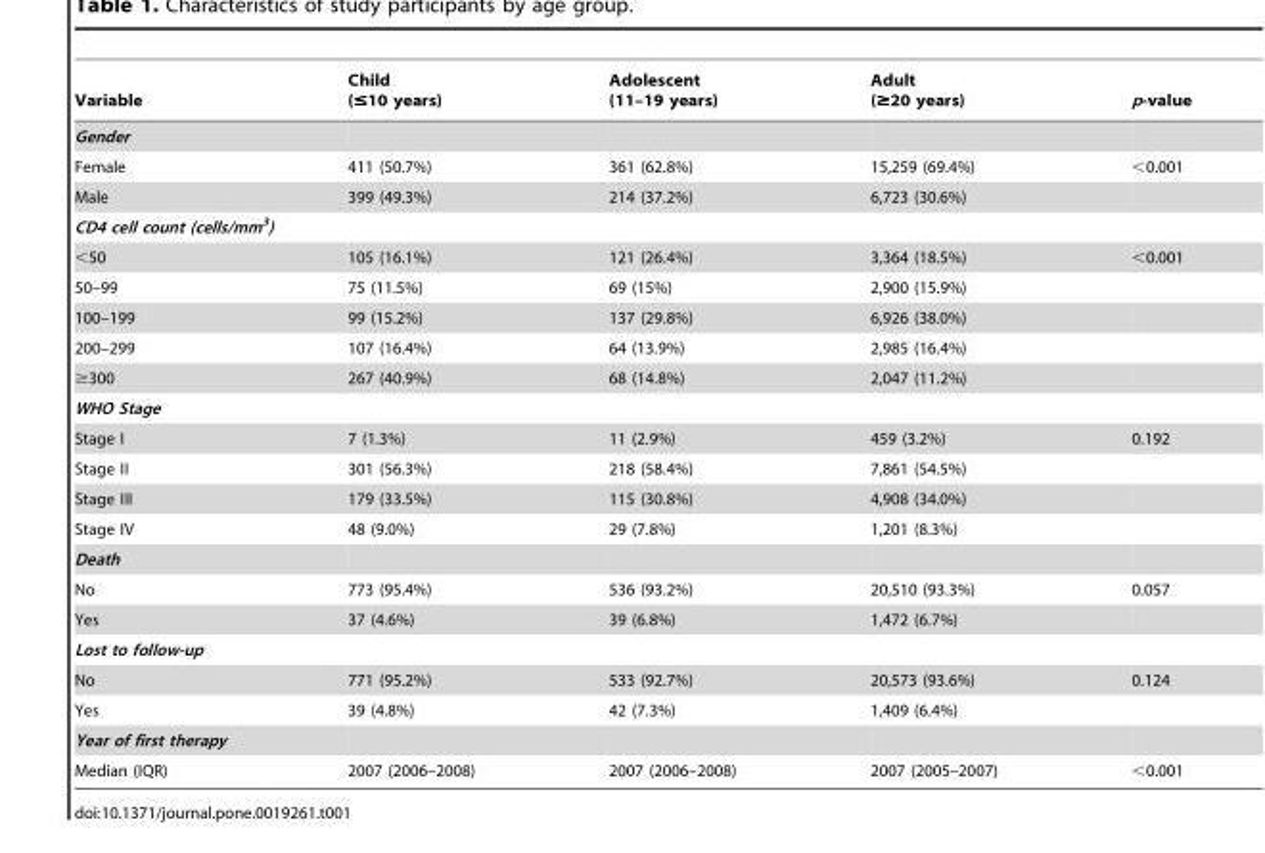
<table><thead><tr><td>Variable</td><td>Child (≤10 years)</td><td>Adolescent (11–19 years)</td><td>Adult (≥20 years)</td><td>p-value</td></tr></thead><tbody><tr><td colspan="5">Gender</td></tr><tr><td>Female</td><td>411 (50.7%)</td><td>361 (62.8%)</td><td>15,259 (69.4%)</td><td>&lt;0.001</td></tr><tr><td>Male</td><td>399 (49.3%)</td><td>214 (37.2%)</td><td>6,723 (30.6%)</td><td></td></tr><tr><td colspan="5">CD4 cell count (cells/mm<sup>3</sup>)</td></tr><tr><td>&lt;50</td><td>105 (16.1%)</td><td>121 (26.4%)</td><td>3,364 (18.5%)</td><td>&lt;0.001</td></tr><tr><td>50–99</td><td>75 (11.5%)</td><td>69 (15%)</td><td>2,900 (15.9%)</td><td></td></tr><tr><td>100–199</td><td>99 (15.2%)</td><td>137 (29.8%)</td><td>6,926 (38.0%)</td><td></td></tr><tr><td>200–299</td><td>107 (16.4%)</td><td>64 (13.9%)</td><td>2,985 (16.4%)</td><td></td></tr><tr><td>≥300</td><td>267 (40.9%)</td><td>68 (14.8%)</td><td>2,047 (11.2%)</td><td></td></tr><tr><td colspan="5">WHO Stage</td></tr><tr><td>Stage I</td><td>7 (1.3%)</td><td>11 (2.9%)</td><td>459 (3.2%)</td><td>0.192</td></tr><tr><td>Stage II</td><td>301 (56.3%)</td><td>218 (58.4%)</td><td>7,861 (54.5%)</td><td></td></tr><tr><td>Stage III</td><td>179 (33.5%)</td><td>115 (30.8%)</td><td>4,908 (34.0%)</td><td></td></tr><tr><td>Stage IV</td><td>48 (9.0%)</td><td>29 (7.8%)</td><td>1,201 (8.3%)</td><td></td></tr><tr><td colspan="5">Death</td></tr><tr><td>No</td><td>773 (95.4%)</td><td>536 (93.2%)</td><td>20,510 (93.3%)</td><td>0.057</td></tr><tr><td>Yes</td><td>37 (4.6%)</td><td>39 (6.8%)</td><td>1,472 (6.7%)</td><td></td></tr><tr><td colspan="5">Lost to follow-up</td></tr><tr><td>No</td><td>771 (95.2%)</td><td>533 (92.7%)</td><td>20,573 (93.6%)</td><td>0.124</td></tr><tr><td>Yes</td><td>39 (4.8%)</td><td>42 (7.3%)</td><td>1,409 (6.4%)</td><td></td></tr><tr><td colspan="5">Year of first therapy</td></tr><tr><td>Median (IQR)</td><td>2007 (2006–2008)</td><td>2007 (2006–2008)</td><td>2007 (2005–2007)</td><td>&lt;0.001</td></tr></tbody></table>